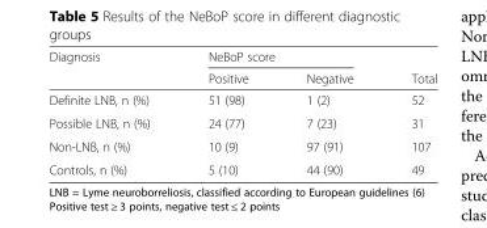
<table><thead><tr><td rowspan="2">Diagnosis</td><td colspan="2">NeBoP score</td><td rowspan="2">Total</td></tr><tr><td>Positive</td><td>Negative</td></tr></thead><tbody><tr><td>Definite LNB, n (%)</td><td>51 (98)</td><td>1 (2)</td><td>52</td></tr><tr><td>Possible LNB, n (%)</td><td>24 (77)</td><td>7 (23)</td><td>31</td></tr><tr><td>Non-LNB, n (%)</td><td>10 (9)</td><td>97 (91)</td><td>107</td></tr><tr><td>Controls, n (%)</td><td>5 (10)</td><td>44 (90)</td><td>49</td></tr></tbody></table>